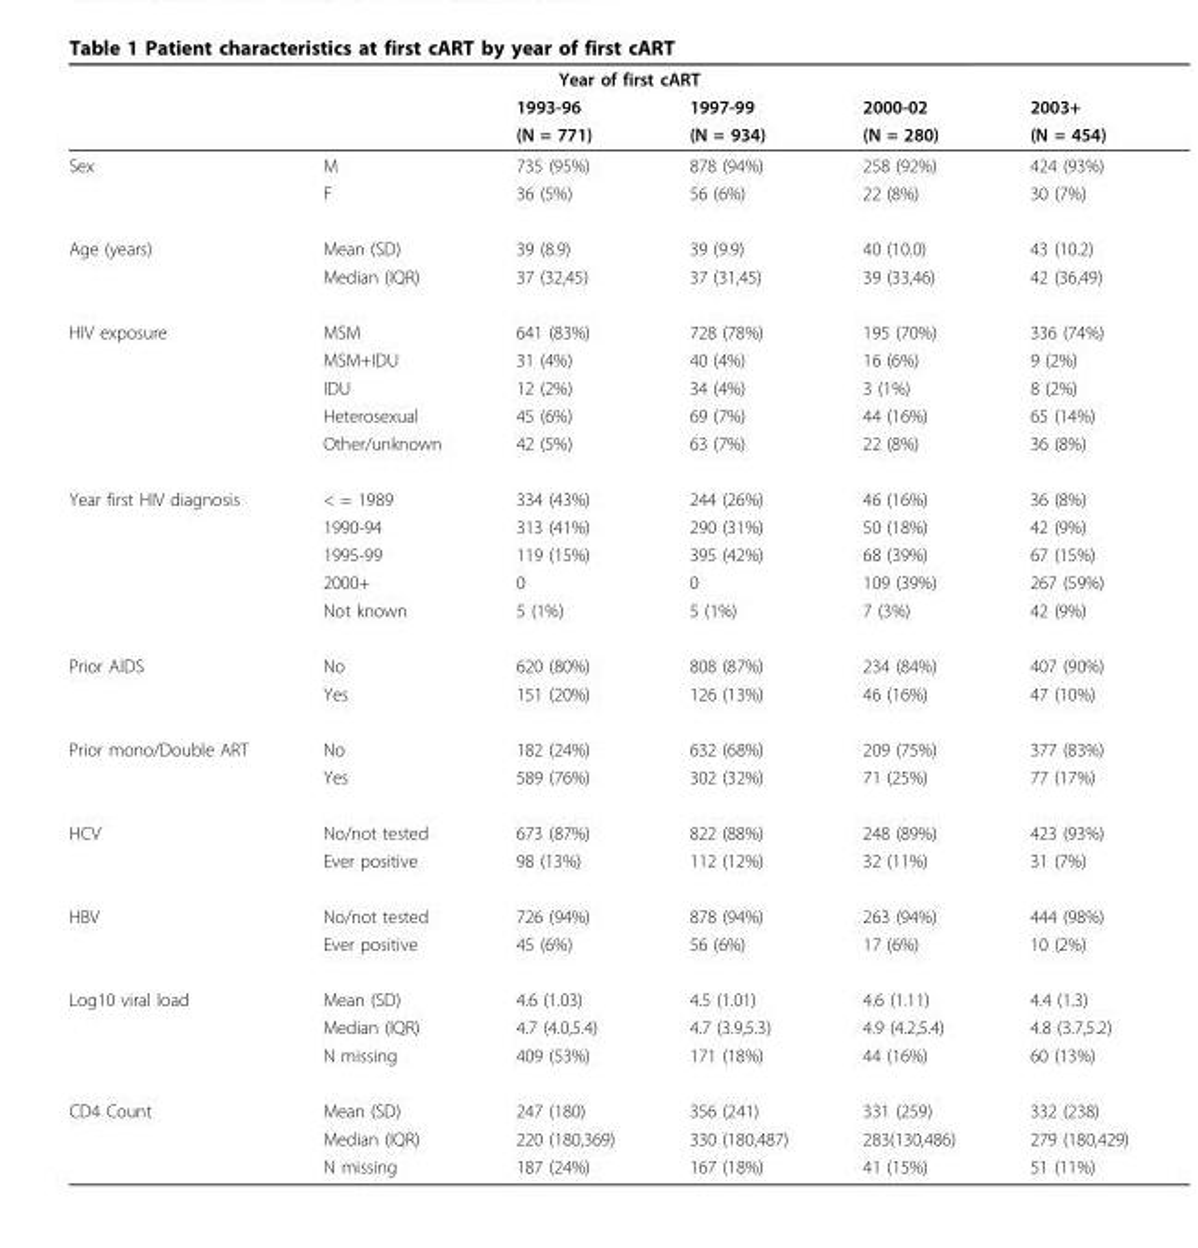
<table><thead><tr><td colspan="6">Year of first cART</td></tr><tr><td rowspan="2"></td><td rowspan="2"></td><td rowspan="2">1993-96 (N = 771)</td><td rowspan="2">1997-99 (N = 934)</td><td rowspan="2">2000-02 (N = 280)</td><td rowspan="2">2003+ (N = 454)</td></tr><tr></tr></thead><tbody><tr><td rowspan="2">Sex</td><td>M</td><td>735 (95%)</td><td>878 (94%)</td><td>258 (92%)</td><td>424 (93%)</td></tr><tr><td>F</td><td>36 (5%)</td><td>56 (6%)</td><td>22 (8%)</td><td>30 (7%)</td></tr><tr><td rowspan="2">Age (years)</td><td>Mean (SD)</td><td>39 (8.9)</td><td>39 (9.9)</td><td>40 (10.0)</td><td>43 (10.2)</td></tr><tr><td>Median (IQR)</td><td>37 (32,45)</td><td>37 (31,45)</td><td>39 (33,46)</td><td>42 (36,49)</td></tr><tr><td rowspan="5">HIV exposure</td><td>MSM</td><td>641 (83%)</td><td>728 (78%)</td><td>195 (70%)</td><td>336 (74%)</td></tr><tr><td>MSM+IDU</td><td>31 (4%)</td><td>40 (4%)</td><td>16 (6%)</td><td>9 (2%)</td></tr><tr><td>IDU</td><td>12 (2%)</td><td>34 (4%)</td><td>3 (1%)</td><td>8 (2%)</td></tr><tr><td>Heterosexual</td><td>45 (6%)</td><td>69 (7%)</td><td>44 (16%)</td><td>65 (14%)</td></tr><tr><td>Other/unknown</td><td>42 (5%)</td><td>63 (7%)</td><td>22 (8%)</td><td>36 (8%)</td></tr><tr><td rowspan="5">Year first HIV diagnosis</td><td>&lt; = 1989</td><td>334 (43%)</td><td>244 (26%)</td><td>46 (16%)</td><td>36 (8%)</td></tr><tr><td>1990-94</td><td>313 (41%)</td><td>290 (31%)</td><td>50 (18%)</td><td>42 (9%)</td></tr><tr><td>1995-99</td><td>119 (15%)</td><td>395 (42%)</td><td>68 (39%)</td><td>67 (15%)</td></tr><tr><td>2000+</td><td>0</td><td>0</td><td>109 (39%)</td><td>267 (59%)</td></tr><tr><td>Not known</td><td>5 (1%)</td><td>5 (1%)</td><td>7 (3%)</td><td>42 (9%)</td></tr><tr><td rowspan="2">Prior AIDS</td><td>No</td><td>620 (80%)</td><td>808 (87%)</td><td>234 (84%)</td><td>407 (90%)</td></tr><tr><td>Yes</td><td>151 (20%)</td><td>126 (13%)</td><td>46 (16%)</td><td>47 (10%)</td></tr><tr><td rowspan="2">Prior mono/Double ART</td><td>No</td><td>182 (24%)</td><td>632 (68%)</td><td>209 (75%)</td><td>377 (83%)</td></tr><tr><td>Yes</td><td>589 (76%)</td><td>302 (32%)</td><td>71 (25%)</td><td>77 (17%)</td></tr><tr><td rowspan="2">HCV</td><td>No/not tested</td><td>673 (87%)</td><td>822 (88%)</td><td>248 (89%)</td><td>423 (93%)</td></tr><tr><td>Ever positive</td><td>98 (13%)</td><td>112 (12%)</td><td>32 (11%)</td><td>31 (7%)</td></tr><tr><td rowspan="2">HBV</td><td>No/not tested</td><td>726 (94%)</td><td>878 (94%)</td><td>263 (94%)</td><td>444 (98%)</td></tr><tr><td>Ever positive</td><td>45 (6%)</td><td>56 (6%)</td><td>17 (6%)</td><td>10 (2%)</td></tr><tr><td rowspan="3">Log10 viral load</td><td>Mean (SD)</td><td>4.6 (1.03)</td><td>4.5 (1.01)</td><td>4.6 (1.11)</td><td>4.4 (1.3)</td></tr><tr><td>Median (IQR)</td><td>4.7 (4.0,5.4)</td><td>4.7 (3.9,5.3)</td><td>4.9 (4.2,5.4)</td><td>4.8 (3.7,5.2)</td></tr><tr><td>N missing</td><td>409 (53%)</td><td>171 (18%)</td><td>44 (16%)</td><td>60 (13%)</td></tr><tr><td rowspan="3">CD4 Count</td><td>Mean (SD)</td><td>247 (180)</td><td>356 (241)</td><td>331 (259)</td><td>332 (238)</td></tr><tr><td>Median (IQR)</td><td>220 (180,369)</td><td>330 (180,487)</td><td>283(130,486)</td><td>279 (180,429)</td></tr><tr><td>N missing</td><td>187 (24%)</td><td>167 (18%)</td><td>41 (15%)</td><td>51 (11%)</td></tr></tbody></table>